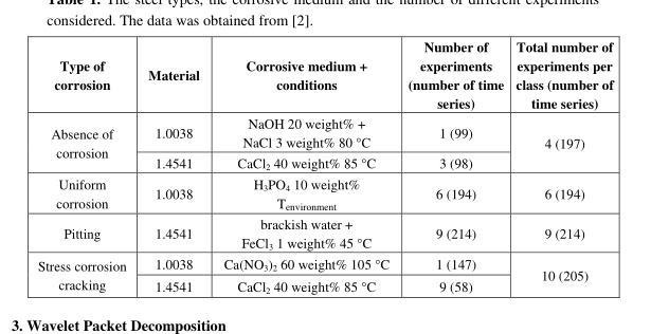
<table><thead><tr><td>Type of corrosion</td><td>Material</td><td>Corrosive medium + conditions</td><td>Number of experiments (number of time series)</td><td>Total number of experiments per class (number of time series)</td></tr></thead><tbody><tr><td rowspan="2">Absence of corrosion</td><td>1.0038</td><td>NaOH 20 weight% + NaCl 3 weight% 80 °C</td><td>1 (99)</td><td rowspan="2">4 (197)</td></tr><tr><td>1.4541</td><td>CaCl<sub>2</sub> 40 weight% 85 °C</td><td>3 (98)</td></tr><tr><td>Uniform corrosion</td><td>1.0038</td><td>H<sub>3</sub>PO<sub>4</sub> 10 weight% T<sub>environment</sub></td><td>6 (194)</td><td>6 (194)</td></tr><tr><td>Pitting</td><td>1.4541</td><td>brackish water + FeCl<sub>3</sub> 1 weight% 45 °C</td><td>9 (214)</td><td>9 (214)</td></tr><tr><td rowspan="2">Stress corrosion cracking</td><td>1.0038</td><td>Ca(NO<sub>3</sub>)<sub>2</sub> 60 weight% 105 °C</td><td>1 (147)</td><td rowspan="2">10 (205)</td></tr><tr><td>1.4541</td><td>CaCl<sub>2</sub> 40 weight% 85 °C</td><td>9 (58)</td></tr></tbody></table>